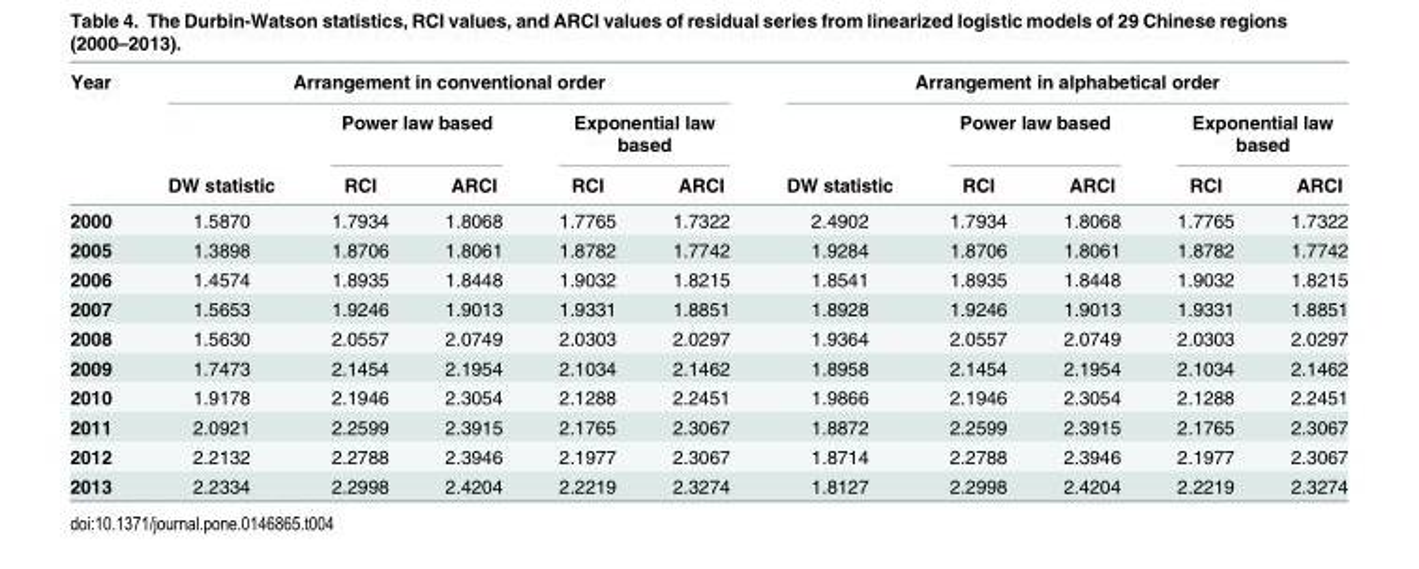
<table><thead><tr><td rowspan="3">Year</td><td colspan="5">Arrangement in conventional order</td><td colspan="5">Arrangement in alphabetical order</td></tr><tr><td rowspan="2">DW statistic</td><td colspan="2">Power law based</td><td colspan="2">Exponential law based</td><td rowspan="2">DW statistic</td><td colspan="2">Power law based</td><td colspan="2">Exponential law based</td></tr><tr><td>RCI</td><td>ARCI</td><td>RCI</td><td>ARCI</td><td>RCI</td><td>ARCI</td><td>RCI</td><td>ARCI</td></tr></thead><tbody><tr><td>2000</td><td>1.5870</td><td>1.7934</td><td>1.8068</td><td>1.7765</td><td>1.7322</td><td>2.4902</td><td>1.7934</td><td>1.8068</td><td>1.7765</td><td>1.7322</td></tr><tr><td>2005</td><td>1.3898</td><td>1.8706</td><td>1.8061</td><td>1.8782</td><td>1.7742</td><td>1.9284</td><td>1.8706</td><td>1.8061</td><td>1.8782</td><td>1.7742</td></tr><tr><td>2006</td><td>1.4574</td><td>1.8935</td><td>1.8448</td><td>1.9032</td><td>1.8215</td><td>1.8541</td><td>1.8935</td><td>1.8448</td><td>1.9032</td><td>1.8215</td></tr><tr><td>2007</td><td>1.5653</td><td>1.9246</td><td>1.9013</td><td>1.9331</td><td>1.8851</td><td>1.8928</td><td>1.9246</td><td>1.9013</td><td>1.9331</td><td>1.8851</td></tr><tr><td>2008</td><td>1.5630</td><td>2.0557</td><td>2.0749</td><td>2.0303</td><td>2.0297</td><td>1.9364</td><td>2.0557</td><td>2.0749</td><td>2.0303</td><td>2.0297</td></tr><tr><td>2009</td><td>1.7473</td><td>2.1454</td><td>2.1954</td><td>2.1034</td><td>2.1462</td><td>1.8958</td><td>2.1454</td><td>2.1954</td><td>2.1034</td><td>2.1462</td></tr><tr><td>2010</td><td>1.9178</td><td>2.1946</td><td>2.3054</td><td>2.1288</td><td>2.2451</td><td>1.9866</td><td>2.1946</td><td>2.3054</td><td>2.1288</td><td>2.2451</td></tr><tr><td>2011</td><td>2.0921</td><td>2.2599</td><td>2.3915</td><td>2.1765</td><td>2.3067</td><td>1.8872</td><td>2.2599</td><td>2.3915</td><td>2.1765</td><td>2.3067</td></tr><tr><td>2012</td><td>2.2132</td><td>2.2788</td><td>2.3946</td><td>2.1977</td><td>2.3067</td><td>1.8714</td><td>2.2788</td><td>2.3946</td><td>2.1977</td><td>2.3067</td></tr><tr><td>2013</td><td>2.2334</td><td>2.2998</td><td>2.4204</td><td>2.2219</td><td>2.3274</td><td>1.8127</td><td>2.2998</td><td>2.4204</td><td>2.2219</td><td>2.3274</td></tr></tbody></table>